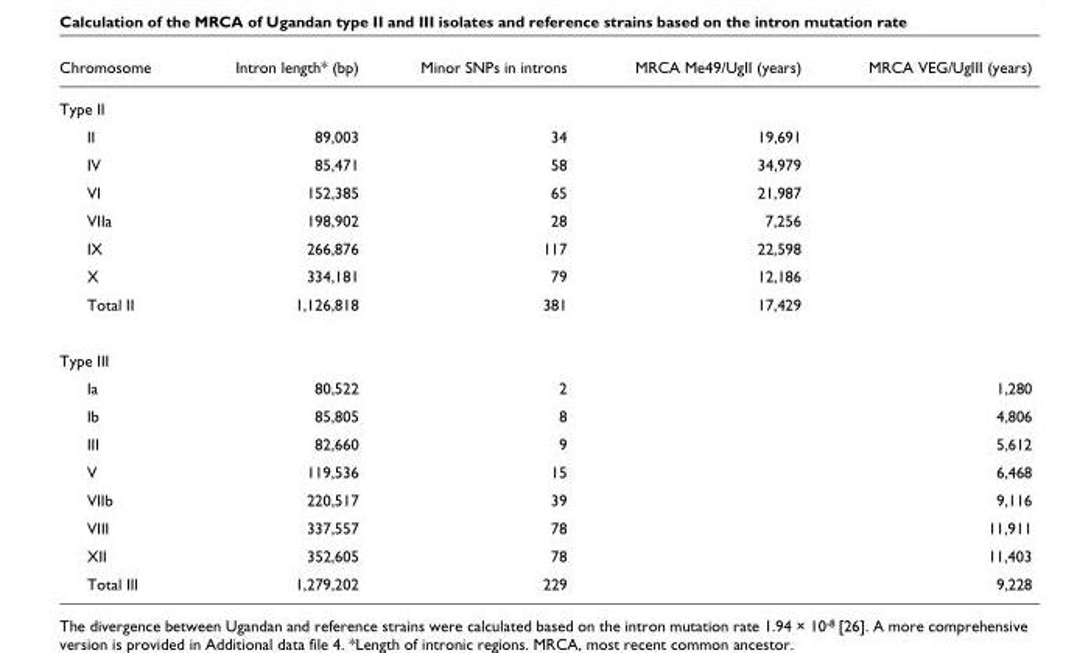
<table><thead><tr><td>Chromosome</td><td>Intron length* (bp)</td><td>Minor SNPs in introns</td><td>MRCA Me49/UgII (years)</td><td>MRCA VEG/UgIII (years)</td></tr></thead><tbody><tr><td colspan="5">Type II</td></tr><tr><td>II</td><td>89,003</td><td>34</td><td>19,691</td><td></td></tr><tr><td>IV</td><td>85,471</td><td>58</td><td>34,979</td><td></td></tr><tr><td>VI</td><td>152,385</td><td>65</td><td>21,987</td><td></td></tr><tr><td>VIIa</td><td>198,902</td><td>28</td><td>7,256</td><td></td></tr><tr><td>IX</td><td>266,876</td><td>117</td><td>22,598</td><td></td></tr><tr><td>X</td><td>334,181</td><td>79</td><td>12,186</td><td></td></tr><tr><td>Total II</td><td>1,126,818</td><td>381</td><td>17,429</td><td></td></tr><tr><td colspan="5">Type III</td></tr><tr><td>Ia</td><td>80,522</td><td>2</td><td></td><td>1,280</td></tr><tr><td>Ib</td><td>85,805</td><td>8</td><td></td><td>4,806</td></tr><tr><td>III</td><td>82,660</td><td>9</td><td></td><td>5,612</td></tr><tr><td>V</td><td>119,536</td><td>15</td><td></td><td>6,468</td></tr><tr><td>VIIb</td><td>220,517</td><td>39</td><td></td><td>9,116</td></tr><tr><td>VIII</td><td>337,557</td><td>78</td><td></td><td>11,911</td></tr><tr><td>XII</td><td>352,605</td><td>78</td><td></td><td>11,403</td></tr><tr><td>Total III</td><td>1,279,202</td><td>229</td><td></td><td>9,228</td></tr></tbody></table>